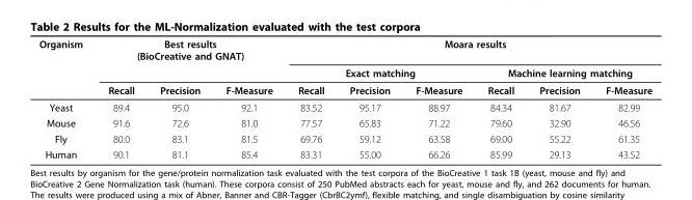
<table><thead><tr><td rowspan="3">Organism</td><td colspan="3">Best results (BioCreative and GNAT)</td><td colspan="6">Moara results</td></tr><tr><td rowspan="2">Recall</td><td rowspan="2">Precision</td><td rowspan="2">F-Measure</td><td colspan="3">Exact matching</td><td colspan="3">Machine learning matching</td></tr><tr><td>Recall</td><td>Precision</td><td>F-Measure</td><td>Recall</td><td>Precision</td><td>F-Measure</td></tr></thead><tbody><tr><td>Yeast</td><td>89.4</td><td>95.0</td><td>92.1</td><td>83.52</td><td>95.17</td><td>88.97</td><td>84.34</td><td>81.67</td><td>82.99</td></tr><tr><td>Mouse</td><td>91.6</td><td>72.6</td><td>81.0</td><td>77.57</td><td>65.83</td><td>71.22</td><td>79.60</td><td>32.90</td><td>46.56</td></tr><tr><td>Fly</td><td>80.0</td><td>83.1</td><td>81.5</td><td>69.76</td><td>59.12</td><td>63.58</td><td>69.00</td><td>55.22</td><td>61.35</td></tr><tr><td>Human</td><td>90.1</td><td>81.1</td><td>85.4</td><td>83.31</td><td>55.00</td><td>66.26</td><td>85.99</td><td>29.13</td><td>43.52</td></tr></tbody></table>